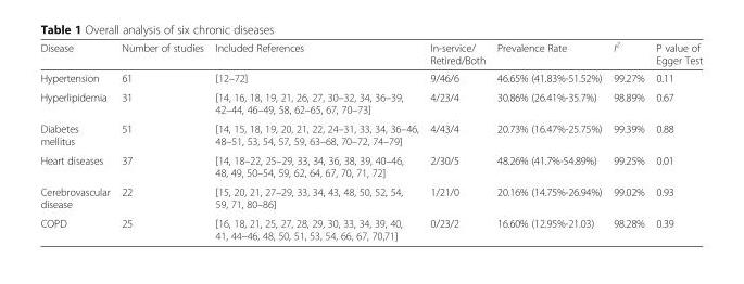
<table><thead><tr><td>Disease</td><td>Number of studies</td><td>Included References</td><td>In-service/ Retired/Both</td><td>Prevalence Rate</td><td>I<sup>2</sup></td><td>P value of Egger Test</td></tr></thead><tbody><tr><td>Hypertension</td><td>61</td><td>[12–72]</td><td>9/46/6</td><td>46.65% (41.83%-51.52%)</td><td>99.27%</td><td>0.11</td></tr><tr><td>Hyperlipidemia</td><td>31</td><td>[14, 16, 18, 19, 21, 26, 27, 30–32, 34, 36–39, 42–44, 46–49, 58, 62–65, 67, 70–73]</td><td>4/23/4</td><td>30.86% (26.41%-35.7%)</td><td>98.89%</td><td>0.67</td></tr><tr><td>Diabetes mellitus</td><td>51</td><td>[14, 15, 18, 19, 20, 21, 22, 24–31, 33, 34, 36–46, 48–51, 53, 54, 57, 59, 63–68, 70–72, 74–79]</td><td>4/43/4</td><td>20.73% (16.47%-25.75%)</td><td>99.39%</td><td>0.88</td></tr><tr><td>Heart diseases</td><td>37</td><td>[14, 18–22, 25–29, 33, 34, 36, 38, 39, 40–46, 48, 49, 50–54, 59, 62, 64, 67, 70, 71, 72]</td><td>2/30/5</td><td>48.26% (41.7%-54.89%)</td><td>99.25%</td><td>0.01</td></tr><tr><td>Cerebrovascular disease</td><td>22</td><td>[15, 20, 21, 27–29, 33, 34, 43, 48, 50, 52, 54, 59, 71, 80–86]</td><td>1/21/0</td><td>20.16% (14.75%-26.94%)</td><td>99.02%</td><td>0.93</td></tr><tr><td>COPD</td><td>25</td><td>[16, 18, 21, 25, 27, 28, 29, 30, 33, 34, 39, 40, 41, 44–46, 48, 50, 51, 53, 54, 66, 67, 70,71]</td><td>0/23/2</td><td>16.60% (12.95%-21.03)</td><td>98.28%</td><td>0.39</td></tr></tbody></table>